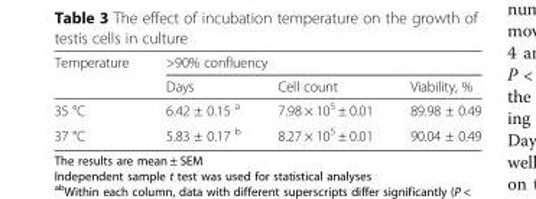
<table><thead><tr><td rowspan="2">Temperature</td><td colspan="3">&gt;90% confluency</td></tr><tr><td>Days</td><td>Cell count</td><td>Viability, %</td></tr></thead><tbody><tr><td>35 °C</td><td>6.42 ± 0.15 <sup>a</sup></td><td>7.98 × 10<sup>5</sup> ± 0.01</td><td>89.98 ± 0.49</td></tr><tr><td>37 °C</td><td>5.83 ± 0.17 <sup>b</sup></td><td>8.27 × 10<sup>5</sup> ± 0.01</td><td>90.04 ± 0.49</td></tr></tbody></table>